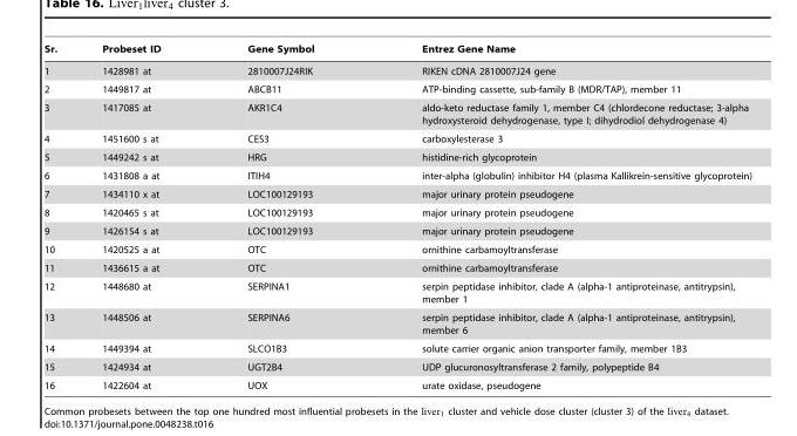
<table><thead><tr><td>Sr.</td><td>Probeset ID</td><td>Gene Symbol</td><td>Entrez Gene Name</td></tr></thead><tbody><tr><td>1</td><td>1428981 at</td><td>2810007J24RIK</td><td>RIKEN cDNA 2810007J24 gene</td></tr><tr><td>2</td><td>1449817 at</td><td>ABCB11</td><td>ATP-binding cassette, sub-family B (MDR/TAP), member 11</td></tr><tr><td>3</td><td>1417085 at</td><td>AKR1C4</td><td>aldo-keto reductase family 1, member C4 (chlordecone reductase; 3-alpha hydroxysteroid dehydrogenase, type I; dihydrodiol dehydrogenase 4)</td></tr><tr><td>4</td><td>1451600 s at</td><td>CES3</td><td>carboxylesterase 3</td></tr><tr><td>5</td><td>1449242 s at</td><td>HRG</td><td>histidine-rich glycoprotein</td></tr><tr><td>6</td><td>1431808 a at</td><td>ITIH4</td><td>inter-alpha (globulin) inhibitor H4 (plasma Kallikrein-sensitive glycoprotein)</td></tr><tr><td>7</td><td>1434110 x at</td><td>LOC100129193</td><td>major urinary protein pseudogene</td></tr><tr><td>8</td><td>1420465 s at</td><td>LOC100129193</td><td>major urinary protein pseudogene</td></tr><tr><td>9</td><td>1426154 s at</td><td>LOC100129193</td><td>major urinary protein pseudogene</td></tr><tr><td>10</td><td>1420525 a at</td><td>OTC</td><td>ornithine carbamoyltransferase</td></tr><tr><td>11</td><td>1436615 a at</td><td>OTC</td><td>ornithine carbamoyltransferase</td></tr><tr><td>12</td><td>1448680 at</td><td>SERPINA1</td><td>serpin peptidase inhibitor, clade A (alpha-1 antiproteinase, antitrypsin), member 1</td></tr><tr><td>13</td><td>1448506 at</td><td>SERPINA6</td><td>serpin peptidase inhibitor, clade A (alpha-1 antiproteinase, antitrypsin), member 6</td></tr><tr><td>14</td><td>1449394 at</td><td>SLCO1B3</td><td>solute carrier organic anion transporter family, member 1B3</td></tr><tr><td>15</td><td>1424934 at</td><td>UGT2B4</td><td>UDP glucuronosyltransferase 2 family, polypeptide B4</td></tr><tr><td>16</td><td>1422604 at</td><td>UOX</td><td>urate oxidase, pseudogene</td></tr></tbody></table>